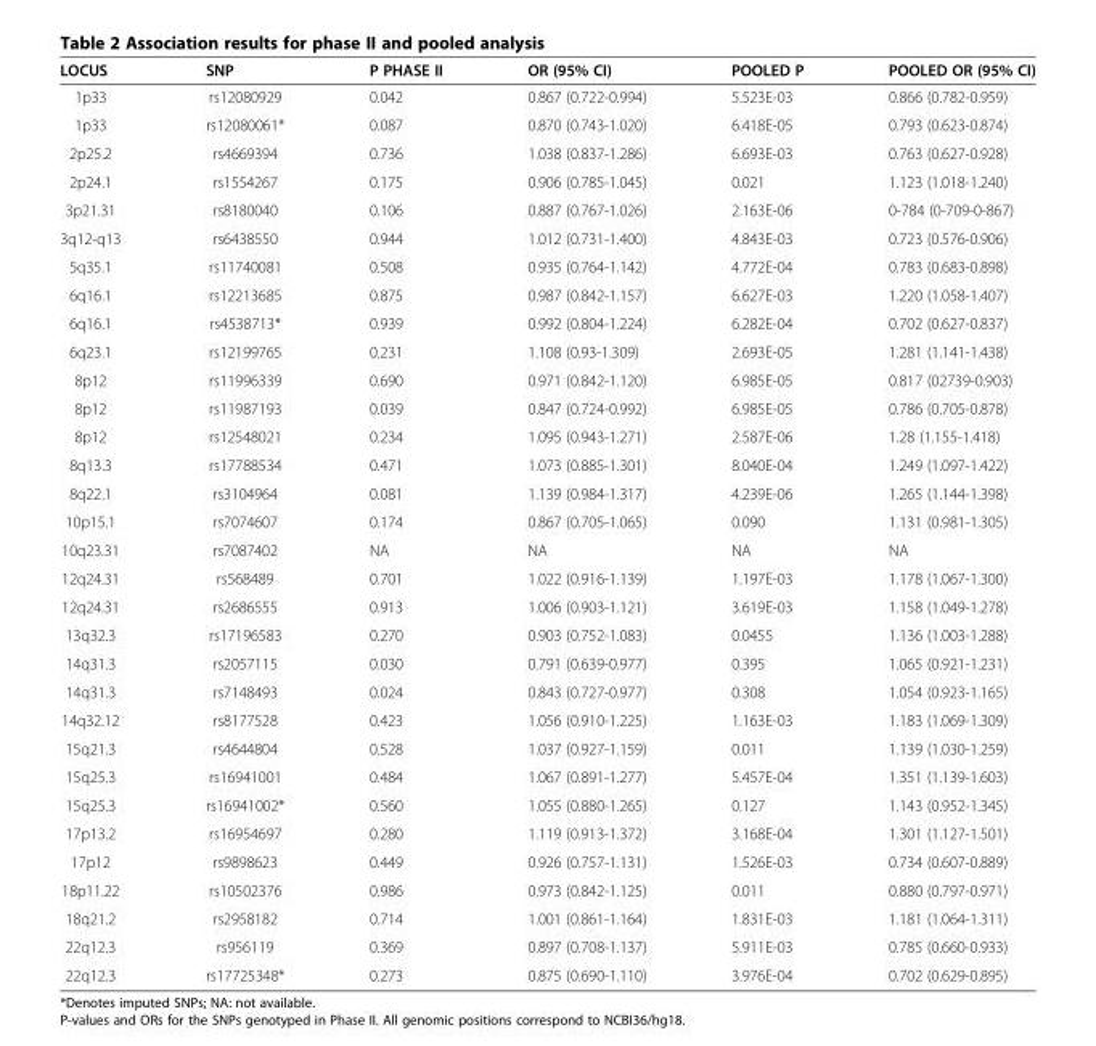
<table><thead><tr><td>LOCUS</td><td>SNP</td><td>P PHASE II</td><td>OR (95% CI)</td><td>POOLED P</td><td>POOLED OR (95% CI)</td></tr></thead><tbody><tr><td>1p33</td><td>rs12080929</td><td>0.042</td><td>0.867 (0.722-0.994)</td><td>5.523E-03</td><td>0.866 (0.782-0.959)</td></tr><tr><td>1p33</td><td>rs12080061*</td><td>0.087</td><td>0.870 (0.743-1.020)</td><td>6.418E-05</td><td>0.793 (0.623-0.874)</td></tr><tr><td>2p25.2</td><td>rs4669394</td><td>0.736</td><td>1.038 (0.837-1.286)</td><td>6.693E-03</td><td>0.763 (0.627-0.928)</td></tr><tr><td>2p24.1</td><td>rs1554267</td><td>0.175</td><td>0.906 (0.785-1.045)</td><td>0.021</td><td>1.123 (1.018-1.240)</td></tr><tr><td>3p21.31</td><td>rs8180040</td><td>0.106</td><td>0.887 (0.767-1.026)</td><td>2.163E-06</td><td>0-784 (0-709-0-867)</td></tr><tr><td>3q12-q13</td><td>rs6438550</td><td>0.944</td><td>1.012 (0.731-1.400)</td><td>4.843E-03</td><td>0.723 (0.576-0.906)</td></tr><tr><td>5q35.1</td><td>rs11740081</td><td>0.508</td><td>0.935 (0.764-1.142)</td><td>4.772E-04</td><td>0.783 (0.683-0.898)</td></tr><tr><td>6q16.1</td><td>rs12213685</td><td>0.875</td><td>0.987 (0.842-1.157)</td><td>6.627E-03</td><td>1.220 (1.058-1.407)</td></tr><tr><td>6q16.1</td><td>rs4538713*</td><td>0.939</td><td>0.992 (0.804-1.224)</td><td>6.282E-04</td><td>0.702 (0.627-0.837)</td></tr><tr><td>6q23.1</td><td>rs12199765</td><td>0.231</td><td>1.108 (0.93-1.309)</td><td>2.693E-05</td><td>1.281 (1.141-1.438)</td></tr><tr><td>8p12</td><td>rs11996339</td><td>0.690</td><td>0.971 (0.842-1.120)</td><td>6.985E-05</td><td>0.817 (02739-0.903)</td></tr><tr><td>8p12</td><td>rs11987193</td><td>0.039</td><td>0.847 (0.724-0.992)</td><td>6.985E-05</td><td>0.786 (0.705-0.878)</td></tr><tr><td>8p12</td><td>rs12548021</td><td>0.234</td><td>1.095 (0.943-1.271)</td><td>2.587E-06</td><td>1.28 (1.155-1.418)</td></tr><tr><td>8q13.3</td><td>rs17788534</td><td>0.471</td><td>1.073 (0.885-1.301)</td><td>8.040E-04</td><td>1.249 (1.097-1.422)</td></tr><tr><td>8q22.1</td><td>rs3104964</td><td>0.081</td><td>1.139 (0.984-1.317)</td><td>4.239E-06</td><td>1.265 (1.144-1.398)</td></tr><tr><td>10p15.1</td><td>rs7074607</td><td>0.174</td><td>0.867 (0.705-1.065)</td><td>0.090</td><td>1.131 (0.981-1.305)</td></tr><tr><td>10q23.31</td><td>rs7087402</td><td>NA</td><td>NA</td><td>NA</td><td>NA</td></tr><tr><td>12q24.31</td><td>rs568489</td><td>0.701</td><td>1.022 (0.916-1.139)</td><td>1.197E-03</td><td>1.178 (1.067-1.300)</td></tr><tr><td>12q24.31</td><td>rs2686555</td><td>0.913</td><td>1.006 (0.903-1.121)</td><td>3.619E-03</td><td>1.158 (1.049-1.278)</td></tr><tr><td>13q32.3</td><td>rs17196583</td><td>0.270</td><td>0.903 (0.752-1.083)</td><td>0.0455</td><td>1.136 (1.003-1.288)</td></tr><tr><td>14q31.3</td><td>rs2057115</td><td>0.030</td><td>0.791 (0.639-0.977)</td><td>0.395</td><td>1.065 (0.921-1.231)</td></tr><tr><td>14q31.3</td><td>rs7148493</td><td>0.024</td><td>0.843 (0.727-0.977)</td><td>0.308</td><td>1.054 (0.923-1.165)</td></tr><tr><td>14q32.12</td><td>rs8177528</td><td>0.423</td><td>1.056 (0.910-1.225)</td><td>1.163E-03</td><td>1.183 (1.069-1.309)</td></tr><tr><td>15q21.3</td><td>rs4644804</td><td>0.528</td><td>1.037 (0.927-1.159)</td><td>0.011</td><td>1.139 (1.030-1.259)</td></tr><tr><td>15q25.3</td><td>rs16941001</td><td>0.484</td><td>1.067 (0.891-1.277)</td><td>5.457E-04</td><td>1.351 (1.139-1.603)</td></tr><tr><td>15q25.3</td><td>rs16941002*</td><td>0.560</td><td>1.055 (0.880-1.265)</td><td>0.127</td><td>1.143 (0.952-1.345)</td></tr><tr><td>17p13.2</td><td>rs16954697</td><td>0.280</td><td>1.119 (0.913-1.372)</td><td>3.168E-04</td><td>1.301 (1.127-1.501)</td></tr><tr><td>17p12</td><td>rs9898623</td><td>0.449</td><td>0.926 (0.757-1.131)</td><td>1.526E-03</td><td>0.734 (0.607-0.889)</td></tr><tr><td>18p11.22</td><td>rs10502376</td><td>0.986</td><td>0.973 (0.842-1.125)</td><td>0.011</td><td>0.880 (0.797-0.971)</td></tr><tr><td>18q21.2</td><td>rs2958182</td><td>0.714</td><td>1.001 (0.861-1.164)</td><td>1.831E-03</td><td>1.181 (1.064-1.311)</td></tr><tr><td>22q12.3</td><td>rs956119</td><td>0.369</td><td>0.897 (0.708-1.137)</td><td>5.911E-03</td><td>0.785 (0.660-0.933)</td></tr><tr><td>22q12.3</td><td>rs17725348*</td><td>0.273</td><td>0.875 (0.690-1.110)</td><td>3.976E-04</td><td>0.702 (0.629-0.895)</td></tr></tbody></table>